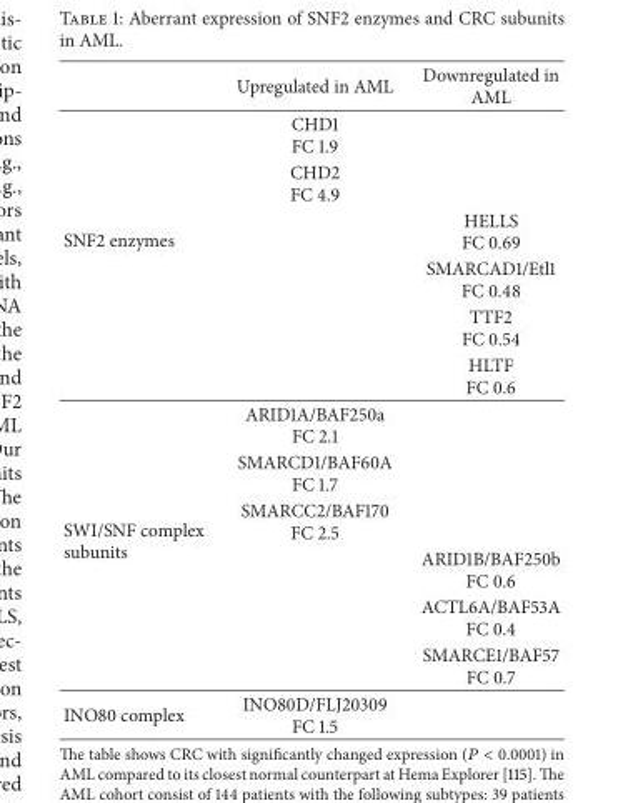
<table><thead><tr><td></td><td>Upregulated in AML</td><td>Downregulated in AML</td></tr></thead><tbody><tr><td rowspan="6">SNF2 enzymes</td><td>CHD1 FC 1.9</td><td></td></tr><tr><td>CHD2 FC 4.9</td><td></td></tr><tr><td></td><td>HELLS FC 0.69</td></tr><tr><td></td><td>SMARCAD1/Etl1 FC 0.48</td></tr><tr><td></td><td>TTF2 FC 0.54</td></tr><tr><td></td><td>HLTF FC 0.6</td></tr><tr><td rowspan="6">SWI/SNF complex subunits</td><td>ARID1A/BAF250a FC 2.1</td><td></td></tr><tr><td>SMARCD1/BAF60A FC 1.7</td><td></td></tr><tr><td>SMARCC2/BAF170 FC 2.5</td><td></td></tr><tr><td></td><td>ARID1B/BAF250b FC 0.6</td></tr><tr><td></td><td>ACTL6A/BAF53A FC 0.4</td></tr><tr><td></td><td>SMARCE1/BAF57 FC 0.7</td></tr><tr><td>INO80 complex</td><td>INO80D/FLJ20309 FC 1.5</td><td></td></tr></tbody></table>